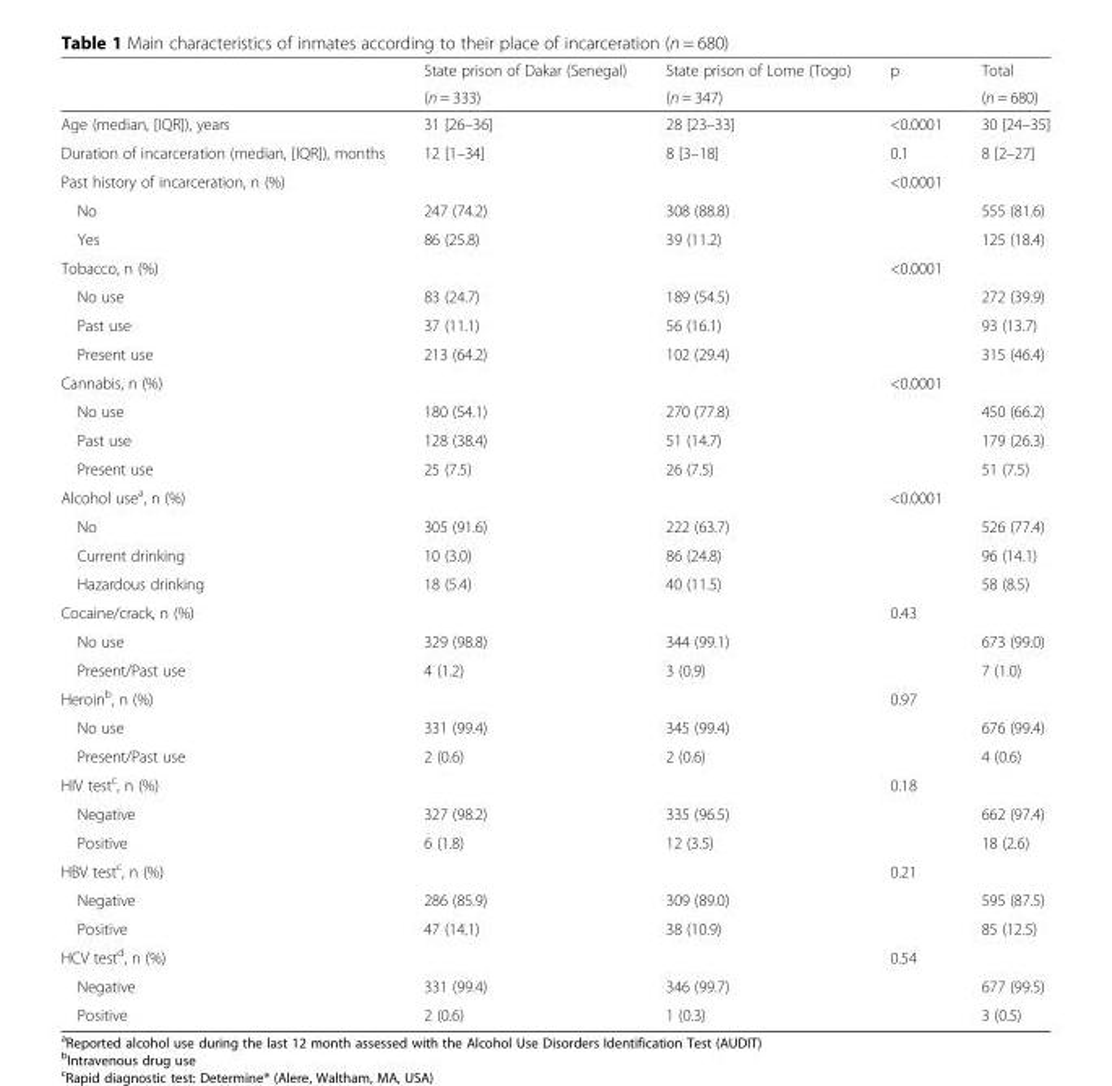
<table><thead><tr><td rowspan="2"></td><td rowspan="2">State prison of Dakar (Senegal) (n = 333)</td><td rowspan="2">State prison of Lome (Togo) (n = 347)</td><td rowspan="2">p</td><td rowspan="2">Total (n = 680)</td></tr><tr></tr></thead><tbody><tr><td>Age (median, [IQR]), years</td><td>31 [26–36]</td><td>28 [23–33]</td><td>&lt;0.0001</td><td>30 [24–35]</td></tr><tr><td>Duration of incarceration (median, [IQR]), months</td><td>12 [1–34]</td><td>8 [3–18]</td><td>0.1</td><td>8 [2–27]</td></tr><tr><td>Past history of incarceration, n (%)</td><td></td><td></td><td>&lt;0.0001</td><td></td></tr><tr><td>No</td><td>247 (74.2)</td><td>308 (88.8)</td><td></td><td>555 (81.6)</td></tr><tr><td>Yes</td><td>86 (25.8)</td><td>39 (11.2)</td><td></td><td>125 (18.4)</td></tr><tr><td>Tobacco, n (%)</td><td></td><td></td><td>&lt;0.0001</td><td></td></tr><tr><td>No use</td><td>83 (24.7)</td><td>189 (54.5)</td><td></td><td>272 (39.9)</td></tr><tr><td>Past use</td><td>37 (11.1)</td><td>56 (16.1)</td><td></td><td>93 (13.7)</td></tr><tr><td>Present use</td><td>213 (64.2)</td><td>102 (29.4)</td><td></td><td>315 (46.4)</td></tr><tr><td>Cannabis, n (%)</td><td></td><td></td><td>&lt;0.0001</td><td></td></tr><tr><td>No use</td><td>180 (54.1)</td><td>270 (77.8)</td><td></td><td>450 (66.2)</td></tr><tr><td>Past use</td><td>128 (38.4)</td><td>51 (14.7)</td><td></td><td>179 (26.3)</td></tr><tr><td>Present use</td><td>25 (7.5)</td><td>26 (7.5)</td><td></td><td>51 (7.5)</td></tr><tr><td>Alcohol use<sup>a</sup>, n (%)</td><td></td><td></td><td>&lt;0.0001</td><td></td></tr><tr><td>No</td><td>305 (91.6)</td><td>222 (63.7)</td><td></td><td>526 (77.4)</td></tr><tr><td>Current drinking</td><td>10 (3.0)</td><td>86 (24.8)</td><td></td><td>96 (14.1)</td></tr><tr><td>Hazardous drinking</td><td>18 (5.4)</td><td>40 (11.5)</td><td></td><td>58 (8.5)</td></tr><tr><td>Cocaine/crack, n (%)</td><td></td><td></td><td>0.43</td><td></td></tr><tr><td>No use</td><td>329 (98.8)</td><td>344 (99.1)</td><td></td><td>673 (99.0)</td></tr><tr><td>Present/Past use</td><td>4 (1.2)</td><td>3 (0.9)</td><td></td><td>7 (1.0)</td></tr><tr><td>Heroin<sup>b</sup>, n (%)</td><td></td><td></td><td>0.97</td><td></td></tr><tr><td>No use</td><td>331 (99.4)</td><td>345 (99.4)</td><td></td><td>676 (99.4)</td></tr><tr><td>Present/Past use</td><td>2 (0.6)</td><td>2 (0.6)</td><td></td><td>4 (0.6)</td></tr><tr><td>HIV test<sup>c</sup>, n (%)</td><td></td><td></td><td>0.18</td><td></td></tr><tr><td>Negative</td><td>327 (98.2)</td><td>335 (96.5)</td><td></td><td>662 (97.4)</td></tr><tr><td>Positive</td><td>6 (1.8)</td><td>12 (3.5)</td><td></td><td>18 (2.6)</td></tr><tr><td>HBV test<sup>c</sup>, n (%)</td><td></td><td></td><td>0.21</td><td></td></tr><tr><td>Negative</td><td>286 (85.9)</td><td>309 (89.0)</td><td></td><td>595 (87.5)</td></tr><tr><td>Positive</td><td>47 (14.1)</td><td>38 (10.9)</td><td></td><td>85 (12.5)</td></tr><tr><td>HCV test<sup>d</sup>, n (%)</td><td></td><td></td><td>0.54</td><td></td></tr><tr><td>Negative</td><td>331 (99.4)</td><td>346 (99.7)</td><td></td><td>677 (99.5)</td></tr><tr><td>Positive</td><td>2 (0.6)</td><td>1 (0.3)</td><td></td><td>3 (0.5)</td></tr></tbody></table>